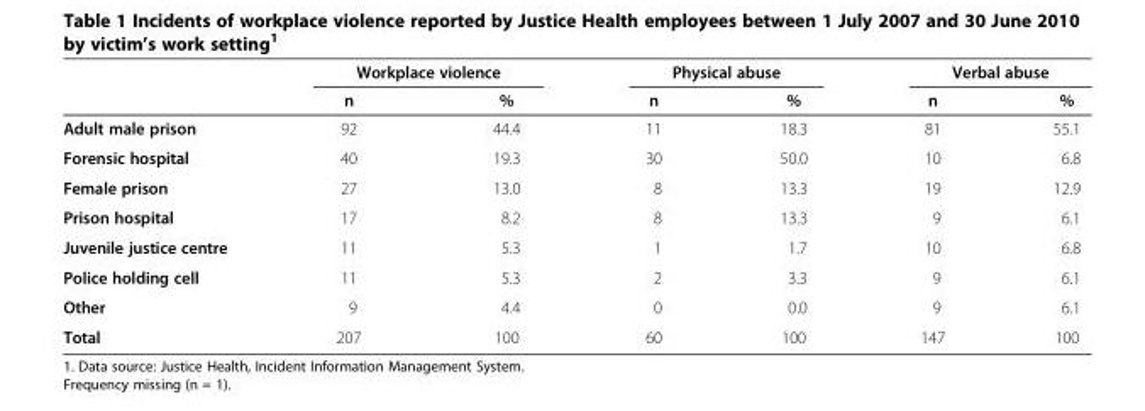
<table><thead><tr><td rowspan="2"></td><td colspan="2">Workplace violence</td><td colspan="2">Physical abuse</td><td colspan="2">Verbal abuse</td></tr><tr><td>n</td><td>%</td><td>n</td><td>%</td><td>n</td><td>%</td></tr></thead><tbody><tr><td>Adult male prison</td><td>92</td><td>44.4</td><td>11</td><td>18.3</td><td>81</td><td>55.1</td></tr><tr><td>Forensic hospital</td><td>40</td><td>19.3</td><td>30</td><td>50.0</td><td>10</td><td>6.8</td></tr><tr><td>Female prison</td><td>27</td><td>13.0</td><td>8</td><td>13.3</td><td>19</td><td>12.9</td></tr><tr><td>Prison hospital</td><td>17</td><td>8.2</td><td>8</td><td>13.3</td><td>9</td><td>6.1</td></tr><tr><td>Juvenile justice centre</td><td>11</td><td>5.3</td><td>1</td><td>1.7</td><td>10</td><td>6.8</td></tr><tr><td>Police holding cell</td><td>11</td><td>5.3</td><td>2</td><td>3.3</td><td>9</td><td>6.1</td></tr><tr><td>Other</td><td>9</td><td>4.4</td><td>0</td><td>0.0</td><td>9</td><td>6.1</td></tr><tr><td>Total</td><td>207</td><td>100</td><td>60</td><td>100</td><td>147</td><td>100</td></tr></tbody></table>